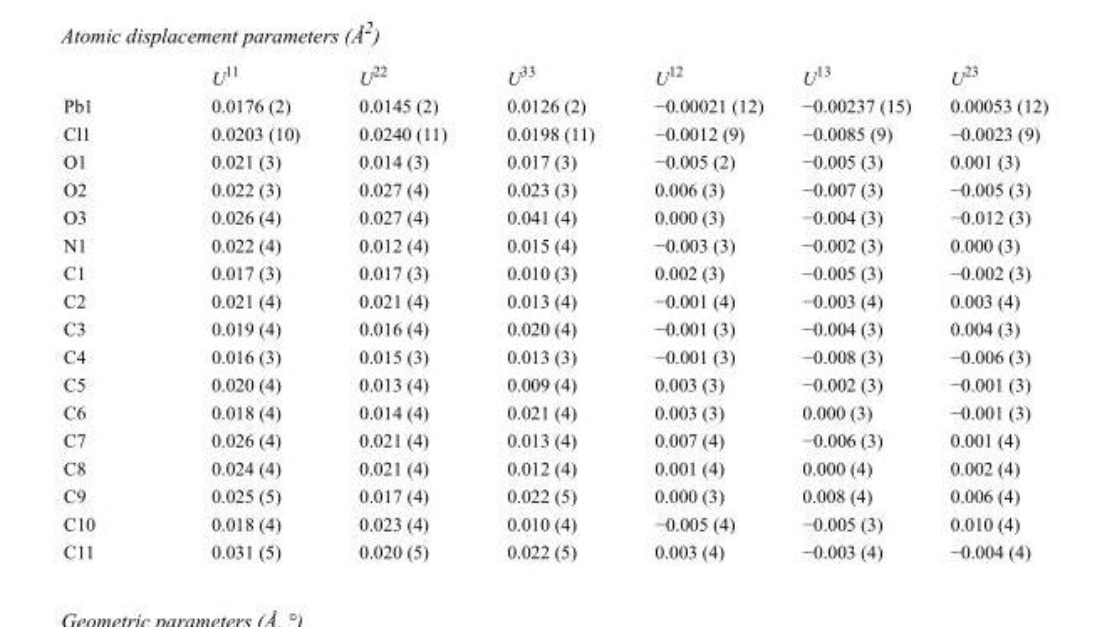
<table><thead><tr><td></td><td>U<sup>11</sup></td><td>U<sup>22</sup></td><td>U<sup>33</sup></td><td>U<sup>12</sup></td><td>U<sup>13</sup></td><td>U<sup>23</sup></td></tr></thead><tbody><tr><td>Pb1</td><td>0.0176 (2)</td><td>0.0145 (2)</td><td>0.0126 (2)</td><td>−0.00021 (12)</td><td>−0.00237 (15)</td><td>0.00053 (12)</td></tr><tr><td>Cl1</td><td>0.0203 (10)</td><td>0.0240 (11)</td><td>0.0198 (11)</td><td>−0.0012 (9)</td><td>−0.0085 (9)</td><td>−0.0023 (9)</td></tr><tr><td>O1</td><td>0.021 (3)</td><td>0.014 (3)</td><td>0.017 (3)</td><td>−0.005 (2)</td><td>−0.005 (3)</td><td>0.001 (3)</td></tr><tr><td>O2</td><td>0.022 (3)</td><td>0.027 (4)</td><td>0.023 (3)</td><td>0.006 (3)</td><td>−0.007 (3)</td><td>−0.005 (3)</td></tr><tr><td>O3</td><td>0.026 (4)</td><td>0.027 (4)</td><td>0.041 (4)</td><td>0.000 (3)</td><td>−0.004 (3)</td><td>−0.012 (3)</td></tr><tr><td>N1</td><td>0.022 (4)</td><td>0.012 (4)</td><td>0.015 (4)</td><td>−0.003 (3)</td><td>−0.002 (3)</td><td>0.000 (3)</td></tr><tr><td>C1</td><td>0.017 (3)</td><td>0.017 (3)</td><td>0.010 (3)</td><td>0.002 (3)</td><td>−0.005 (3)</td><td>−0.002 (3)</td></tr><tr><td>C2</td><td>0.021 (4)</td><td>0.021 (4)</td><td>0.013 (4)</td><td>−0.001 (4)</td><td>−0.003 (4)</td><td>0.003 (4)</td></tr><tr><td>C3</td><td>0.019 (4)</td><td>0.016 (4)</td><td>0.020 (4)</td><td>−0.001 (3)</td><td>−0.004 (3)</td><td>0.004 (3)</td></tr><tr><td>C4</td><td>0.016 (3)</td><td>0.015 (3)</td><td>0.013 (3)</td><td>−0.001 (3)</td><td>−0.008 (3)</td><td>−0.006 (3)</td></tr><tr><td>C5</td><td>0.020 (4)</td><td>0.013 (4)</td><td>0.009 (4)</td><td>0.003 (3)</td><td>−0.002 (3)</td><td>−0.001 (3)</td></tr><tr><td>C6</td><td>0.018 (4)</td><td>0.014 (4)</td><td>0.021 (4)</td><td>0.003 (3)</td><td>0.000 (3)</td><td>−0.001 (3)</td></tr><tr><td>C7</td><td>0.026 (4)</td><td>0.021 (4)</td><td>0.013 (4)</td><td>0.007 (4)</td><td>−0.006 (3)</td><td>0.001 (4)</td></tr><tr><td>C8</td><td>0.024 (4)</td><td>0.021 (4)</td><td>0.012 (4)</td><td>0.001 (4)</td><td>0.000 (4)</td><td>0.002 (4)</td></tr><tr><td>C9</td><td>0.025 (5)</td><td>0.017 (4)</td><td>0.022 (5)</td><td>0.000 (3)</td><td>0.008 (4)</td><td>0.006 (4)</td></tr><tr><td>C10</td><td>0.018 (4)</td><td>0.023 (4)</td><td>0.010 (4)</td><td>−0.005 (4)</td><td>−0.005 (3)</td><td>0.010 (4)</td></tr><tr><td>C11</td><td>0.031 (5)</td><td>0.020 (5)</td><td>0.022 (5)</td><td>0.003 (4)</td><td>−0.003 (4)</td><td>−0.004 (4)</td></tr></tbody></table>